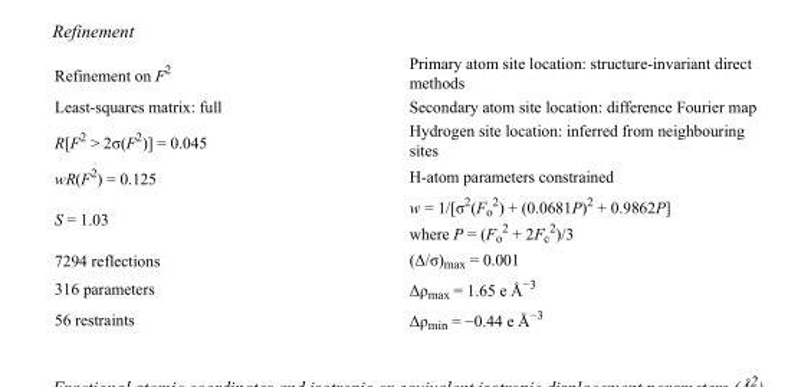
<table><tbody><tr><td>Refinement on F<sup>2</sup></td><td>Primary atom site location: structure-invariant direct methods</td></tr><tr><td>Least-squares matrix: full</td><td>Secondary atom site location: difference Fourier map</td></tr><tr><td>R[F<sup>2</sup> &gt; 2σ(F<sup>2</sup>)] = 0.045</td><td>Hydrogen site location: inferred from neighbouring sites</td></tr><tr><td>wR(F<sup>2</sup>) = 0.125</td><td>H-atom parameters constrained</td></tr><tr><td>S = 1.03</td><td>w = 1/[σ<sup>2</sup>(F<sub>o</sub> <sup>2</sup>) + (0.0681P)<sup>2</sup> + 0.9862P] where P = (F<sub>o</sub> <sup>2</sup> + 2F<sub>c</sub> <sup>2</sup>)/3</td></tr><tr><td>7294 reflections</td><td>(Δ/σ)<sub>max</sub> = 0.001</td></tr><tr><td>316 parameters</td><td>Δρ<sub>max</sub> = 1.65 e Å<sup>−3</sup></td></tr><tr><td>56 restraints</td><td>Δρ<sub>min</sub> = −0.44 e Å<sup>−3</sup></td></tr></tbody></table>